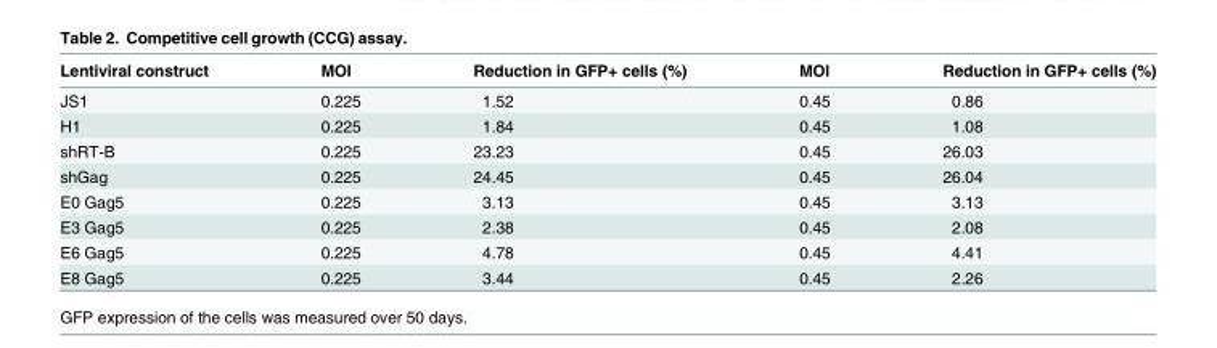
<table><thead><tr><td>Lentiviral construct</td><td>MOI</td><td>Reduction in GFP+ cells (%)</td><td>MOI</td><td>Reduction in GFP+ cells (%)</td></tr></thead><tbody><tr><td>JS1</td><td>0.225</td><td>1.52</td><td>0.45</td><td>0.86</td></tr><tr><td>H1</td><td>0.225</td><td>1.84</td><td>0.45</td><td>1.08</td></tr><tr><td>shRT-B</td><td>0.225</td><td>23.23</td><td>0.45</td><td>26.03</td></tr><tr><td>shGag</td><td>0.225</td><td>24.45</td><td>0.45</td><td>26.04</td></tr><tr><td>E0 Gag5</td><td>0.225</td><td>3.13</td><td>0.45</td><td>3.13</td></tr><tr><td>E3 Gag5</td><td>0.225</td><td>2.38</td><td>0.45</td><td>2.08</td></tr><tr><td>E6 Gag5</td><td>0.225</td><td>4.78</td><td>0.45</td><td>4.41</td></tr><tr><td>E8 Gag5</td><td>0.225</td><td>3.44</td><td>0.45</td><td>2.26</td></tr></tbody></table>